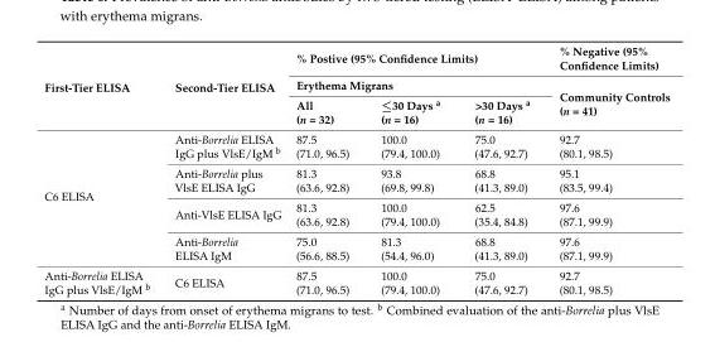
<table><thead><tr><td rowspan="3">First-Tier ELISA</td><td rowspan="3">Second-Tier ELISA</td><td rowspan="2" colspan="3">% Postive (95% Confidence Limits) Erythema Migrans</td><td rowspan="3">% Negative (95% Confidence Limits) Community Controls (n = 41)</td></tr><tr></tr><tr><td>All (n = 32)</td><td>≤30 Days <sup>a</sup> (n = 16)</td><td>&gt;30 Days <sup>a</sup> (n = 16)</td></tr></thead><tbody><tr><td rowspan="4">C6 ELISA</td><td>Anti-Borrelia ELISA IgG plus VlsE/IgM <sup>b</sup></td><td>87.5 (71.0, 96.5)</td><td>100.0 (79.4, 100.0)</td><td>75.0 (47.6, 92.7)</td><td>92.7 (80.1, 98.5)</td></tr><tr><td>Anti-Borrelia plus VlsE ELISA IgG</td><td>81.3 (63.6, 92.8)</td><td>93.8 (69.8, 99.8)</td><td>68.8 (41.3, 89.0)</td><td>95.1 (83.5, 99.4)</td></tr><tr><td>Anti-VlsE ELISA IgG</td><td>81.3 (63.6, 92.8)</td><td>100.0 (79.4, 100.0)</td><td>62.5 (35.4, 84.8)</td><td>97.6 (87.1, 99.9)</td></tr><tr><td>Anti-Borrelia ELISA IgM</td><td>75.0 (56.6, 88.5)</td><td>81.3 (54.4, 96.0)</td><td>68.8 (41.3, 89.0)</td><td>97.6 (87.1, 99.9)</td></tr><tr><td>Anti-Borrelia ELISA IgG plus VlsE/IgM <sup>b</sup></td><td>C6 ELISA</td><td>87.5 (71.0, 96.5)</td><td>100.0 (79.4, 100.0)</td><td>75.0 (47.6, 92.7)</td><td>92.7 (80.1, 98.5)</td></tr></tbody></table>